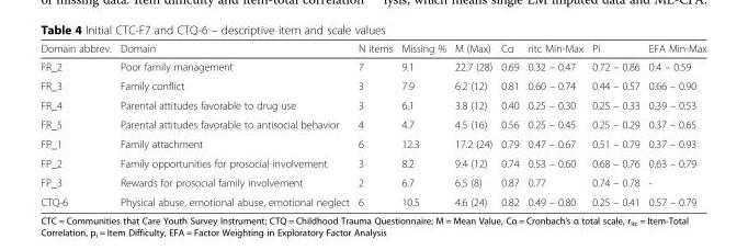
<table><thead><tr><td>Domain abbrev.</td><td>Domain</td><td>N items</td><td>Missing %</td><td>M (Max)</td><td>Cα</td><td>ritc Min-Max</td><td>Pi</td><td>EFA Min-Max</td></tr></thead><tbody><tr><td>FR_2</td><td>Poor family management</td><td>7</td><td>9.1</td><td>22.7 (28)</td><td>0.69</td><td>0.32 – 0.47</td><td>0.72 – 0.86</td><td>0.4 – 0.59</td></tr><tr><td>FR_3</td><td>Family conflict</td><td>3</td><td>7.9</td><td>6.2 (12)</td><td>0.81</td><td>0.60 – 0.74</td><td>0.44 – 0.57</td><td>0.66 – 0.90</td></tr><tr><td>FR_4</td><td>Parental attitudes favorable to drug use</td><td>3</td><td>6.1</td><td>3.8 (12)</td><td>0.40</td><td>0.25 – 0.30</td><td>0.25 – 0.33</td><td>0.39 – 0.53</td></tr><tr><td>FR_5</td><td>Parental attitudes favorable to antisocial behavior</td><td>4</td><td>4.7</td><td>4.5 (16)</td><td>0.56</td><td>0.25 – 0.45</td><td>0.25 – 0.29</td><td>0.37 – 0.65</td></tr><tr><td>FP_1</td><td>Family attachment</td><td>6</td><td>12.3</td><td>17.2 (24)</td><td>0.79</td><td>0.47 – 0.67</td><td>0.51 – 0.79</td><td>0.37 – 0.93</td></tr><tr><td>FP_2</td><td>Family opportunities for prosocial involvement</td><td>3</td><td>8.2</td><td>9.4 (12)</td><td>0.74</td><td>0.53 – 0.60</td><td>0.68 – 0.76</td><td>0.63 – 0.79</td></tr><tr><td>FP_3</td><td>Rewards for prosocial family involvement</td><td>2</td><td>6.7</td><td>6.5 (8)</td><td>0.87</td><td>0.77</td><td>0.74 – 0.78</td><td>-</td></tr><tr><td>CTQ-6</td><td>Physical abuse, emotional abuse, emotional neglect</td><td>6</td><td>10.5</td><td>4.6 (24)</td><td>0.82</td><td>0.49 – 0.80</td><td>0.25 – 0.41</td><td>0.57 – 0.79</td></tr></tbody></table>